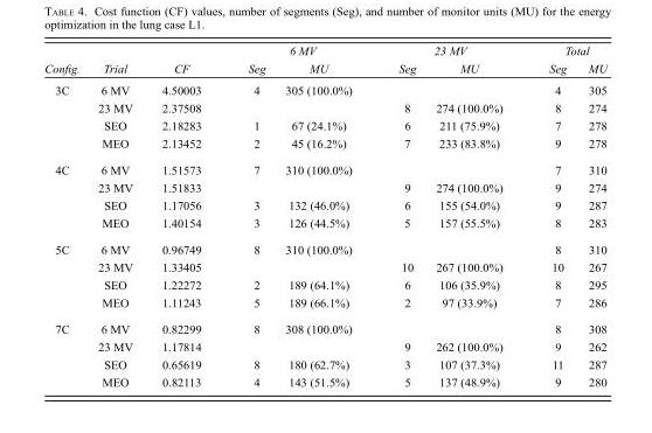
<table><thead><tr><td rowspan="2">Config.</td><td rowspan="2">Trial</td><td rowspan="2">CF</td><td colspan="2">6 MV</td><td colspan="2">23 MV</td><td colspan="2">Total</td></tr><tr><td>Seg</td><td>MU</td><td>Seg</td><td>MU</td><td>Seg</td><td>MU</td></tr></thead><tbody><tr><td rowspan="4">3C</td><td>6 MV</td><td>4.50003</td><td>4</td><td>305 (100.0%)</td><td></td><td></td><td>4</td><td>305</td></tr><tr><td>23 MV</td><td>2.37508</td><td></td><td></td><td>8</td><td>274 (100.0%)</td><td>8</td><td>274</td></tr><tr><td>SEO</td><td>2.18283</td><td>1</td><td>67 (24.1%)</td><td>6</td><td>211 (75.9%)</td><td>7</td><td>278</td></tr><tr><td>MEO</td><td>2.13452</td><td>2</td><td>45 (16.2%)</td><td>7</td><td>233 (83.8%)</td><td>9</td><td>278</td></tr><tr><td rowspan="4">4C</td><td>6 MV</td><td>1.51573</td><td>7</td><td>310 (100.0%)</td><td></td><td></td><td>7</td><td>310</td></tr><tr><td>23 MV</td><td>1.51833</td><td></td><td></td><td>9</td><td>274 (100.0%)</td><td>9</td><td>274</td></tr><tr><td>SEO</td><td>1.17056</td><td>3</td><td>132 (46.0%)</td><td>6</td><td>155 (54.0%)</td><td>9</td><td>287</td></tr><tr><td>MEO</td><td>1.40154</td><td>3</td><td>126 (44.5%)</td><td>5</td><td>157 (55.5%)</td><td>8</td><td>283</td></tr><tr><td rowspan="4">5C</td><td>6 MV</td><td>0.96749</td><td>8</td><td>310 (100.0%)</td><td></td><td></td><td>8</td><td>310</td></tr><tr><td>23 MV</td><td>1.33405</td><td></td><td></td><td>10</td><td>267 (100.0%)</td><td>10</td><td>267</td></tr><tr><td>SEO</td><td>1.22272</td><td>2</td><td>189 (64.1%)</td><td>6</td><td>106 (35.9%)</td><td>8</td><td>295</td></tr><tr><td>MEO</td><td>1.11243</td><td>5</td><td>189 (66.1%)</td><td>2</td><td>97 (33.9%)</td><td>7</td><td>286</td></tr><tr><td rowspan="4">7C</td><td>6 MV</td><td>0.82299</td><td>8</td><td>308 (100.0%)</td><td></td><td></td><td>8</td><td>308</td></tr><tr><td>23 MV</td><td>1.17814</td><td></td><td></td><td>9</td><td>262 (100.0%)</td><td>9</td><td>262</td></tr><tr><td>SEO</td><td>0.65619</td><td>8</td><td>180 (62.7%)</td><td>3</td><td>107 (37.3%)</td><td>11</td><td>287</td></tr><tr><td>MEO</td><td>0.82113</td><td>4</td><td>143 (51.5%)</td><td>5</td><td>137 (48.9%)</td><td>9</td><td>280</td></tr></tbody></table>